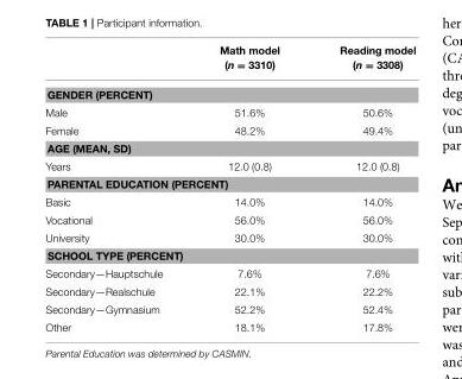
<table><thead><tr><td></td><td>Math model (n = 3310)</td><td>Reading model (n = 3308)</td></tr></thead><tbody><tr><td colspan="3">GENDER (PERCENT)</td></tr><tr><td>Male</td><td>51.6%</td><td>50.6%</td></tr><tr><td>Female</td><td>48.2%</td><td>49.4%</td></tr><tr><td colspan="3">AGE (MEAN, SD)</td></tr><tr><td>Years</td><td>12.0 (0.8)</td><td>12.0 (0.8)</td></tr><tr><td colspan="3">PARENTAL EDUCATION (PERCENT)</td></tr><tr><td>Basic</td><td>14.0%</td><td>14.0%</td></tr><tr><td>Vocational</td><td>56.0%</td><td>56.0%</td></tr><tr><td>University</td><td>30.0%</td><td>30.0%</td></tr><tr><td colspan="3">SCHOOL TYPE (PERCENT)</td></tr><tr><td>Secondary—Hauptschule</td><td>7.6%</td><td>7.6%</td></tr><tr><td>Secondary—Realschule</td><td>22.1%</td><td>22.2%</td></tr><tr><td>Secondary—Gymnasium</td><td>52.2%</td><td>52.4%</td></tr><tr><td>Other</td><td>18.1%</td><td>17.8%</td></tr></tbody></table>